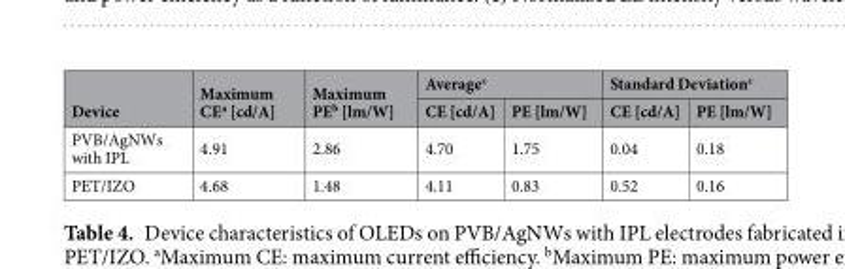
<table><thead><tr><td rowspan="2">Device</td><td rowspan="2">Maximum CE<sup>a</sup> [cd/A]</td><td rowspan="2">Maximum PE<sup>b</sup> [lm/W]</td><td colspan="2">Average<sup>c</sup></td><td colspan="2">Standard Deviation<sup>c</sup></td></tr><tr><td>CE [cd/A]</td><td>PE [lm/W]</td><td>CE [cd/A]</td><td>PE [lm/W]</td></tr></thead><tbody><tr><td>PVB/AgNWs with IPL</td><td>4.91</td><td>2.86</td><td>4.70</td><td>1.75</td><td>0.04</td><td>0.18</td></tr><tr><td>PET/IZO</td><td>4.68</td><td>1.48</td><td>4.11</td><td>0.83</td><td>0.52</td><td>0.16</td></tr></tbody></table>